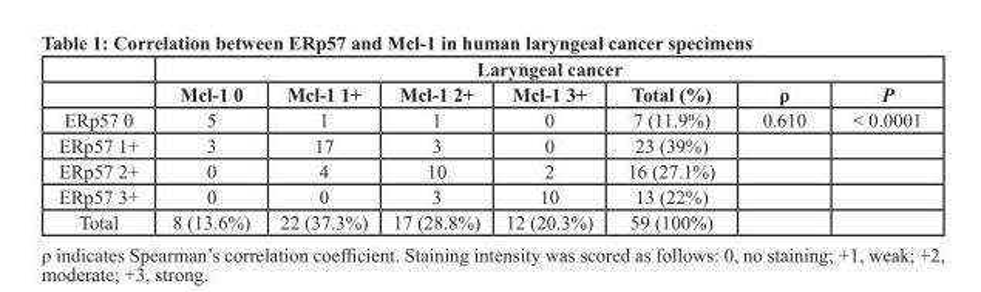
<table><thead><tr><td rowspan="2"></td><td colspan="7">Laryngeal cancer</td></tr><tr><td>Mcl-1 0</td><td>Mcl-1 1+</td><td>Mcl-1 2+</td><td>Mcl-1 3+</td><td>Total (%)</td><td>ρ</td><td>P</td></tr></thead><tbody><tr><td>ERp57 0</td><td>5</td><td>1</td><td>1</td><td>0</td><td>7 (11.9%)</td><td>0.610</td><td>&lt; 0.0001</td></tr><tr><td>ERp57 1+</td><td>3</td><td>17</td><td>3</td><td>0</td><td>23 (39%)</td><td></td><td></td></tr><tr><td>ERp57 2+</td><td>0</td><td>4</td><td>10</td><td>2</td><td>16 (27.1%)</td><td></td><td></td></tr><tr><td>ERp57 3+</td><td>0</td><td>0</td><td>3</td><td>10</td><td>13 (22%)</td><td></td><td></td></tr><tr><td>Total</td><td>8 (13.6%)</td><td>22 (37.3%)</td><td>17 (28.8%)</td><td>12 (20.3%)</td><td>59 (100%)</td><td></td><td></td></tr></tbody></table>